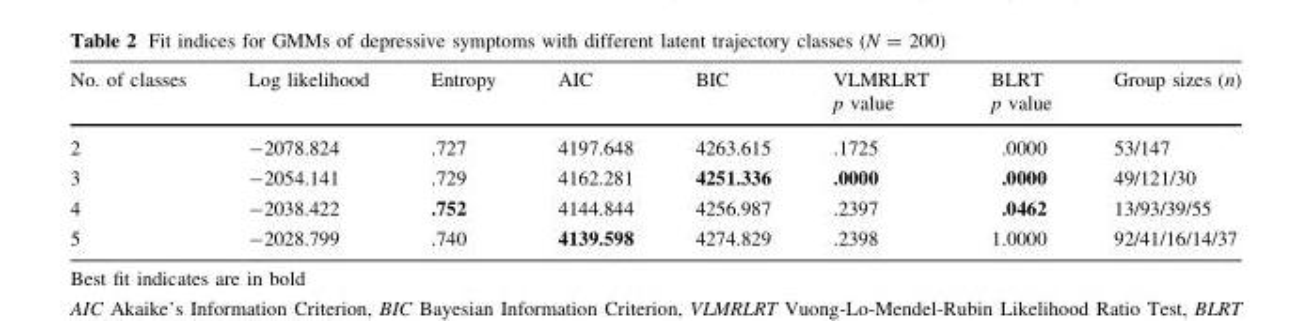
<table><thead><tr><td>No. of classes</td><td>Log likelihood</td><td>Entropy</td><td>AIC</td><td>BIC</td><td>VLMRLRT p value</td><td>BLRT p value</td><td>Group sizes (n)</td></tr></thead><tbody><tr><td>2</td><td>-2078.824</td><td>.727</td><td>4197.648</td><td>4263.615</td><td>.1725</td><td>.0000</td><td>53/147</td></tr><tr><td>3</td><td>-2054.141</td><td>.729</td><td>4162.281</td><td>4251.336</td><td>.0000</td><td>.0000</td><td>49/121/30</td></tr><tr><td>4</td><td>-2038.422</td><td>.752</td><td>4144.844</td><td>4256.987</td><td>.2397</td><td>.0462</td><td>13/93/39/55</td></tr><tr><td>5</td><td>-2028.799</td><td>.740</td><td>4139.598</td><td>4274.829</td><td>.2398</td><td>1.0000</td><td>92/41/16/14/37</td></tr></tbody></table>